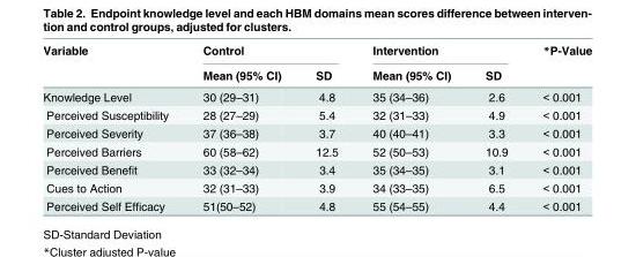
<table><thead><tr><td rowspan="2">Variable</td><td colspan="2">Control</td><td colspan="2">Intervention</td><td rowspan="2">*P-Value</td></tr><tr><td>Mean (95% CI)</td><td>SD</td><td>Mean (95% CI)</td><td>SD</td></tr></thead><tbody><tr><td>Knowledge Level</td><td>30 (29–31)</td><td>4.8</td><td>35 (34–36)</td><td>2.6</td><td>&lt; 0.001</td></tr><tr><td>Perceived Susceptibility</td><td>28 (27–29)</td><td>5.4</td><td>32 (31–33)</td><td>4.9</td><td>&lt; 0.001</td></tr><tr><td>Perceived Severity</td><td>37 (36–38)</td><td>3.7</td><td>40 (40–41)</td><td>3.3</td><td>&lt; 0.001</td></tr><tr><td>Perceived Barriers</td><td>60 (58–62)</td><td>12.5</td><td>52 (50–53)</td><td>10.9</td><td>&lt; 0.001</td></tr><tr><td>Perceived Benefit</td><td>33 (32–34)</td><td>3.4</td><td>35 (34–35)</td><td>3.1</td><td>&lt; 0.001</td></tr><tr><td>Cues to Action</td><td>32 (31–33)</td><td>3.9</td><td>34 (33–35)</td><td>6.5</td><td>&lt; 0.001</td></tr><tr><td>Perceived Self Efficacy</td><td>51(50–52)</td><td>4.8</td><td>55 (54–55)</td><td>4.4</td><td>&lt; 0.001</td></tr></tbody></table>